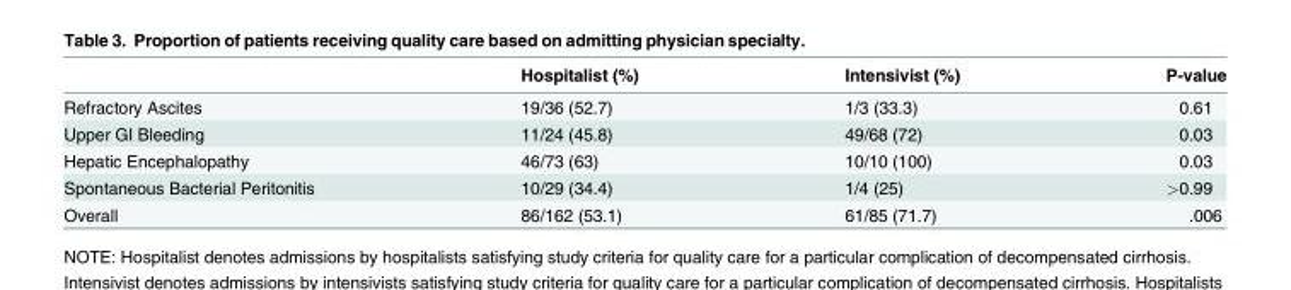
<table><thead><tr><td></td><td>Hospitalist (%)</td><td>Intensivist (%)</td><td>P-value</td></tr></thead><tbody><tr><td>Refractory Ascites</td><td>19/36 (52.7)</td><td>1/3 (33.3)</td><td>0.61</td></tr><tr><td>Upper GI Bleeding</td><td>11/24 (45.8)</td><td>49/68 (72)</td><td>0.03</td></tr><tr><td>Hepatic Encephalopathy</td><td>46/73 (63)</td><td>10/10 (100)</td><td>0.03</td></tr><tr><td>Spontaneous Bacterial Peritonitis</td><td>10/29 (34.4)</td><td>1/4 (25)</td><td>&gt;0.99</td></tr><tr><td>Overall</td><td>86/162 (53.1)</td><td>61/85 (71.7)</td><td>.006</td></tr></tbody></table>